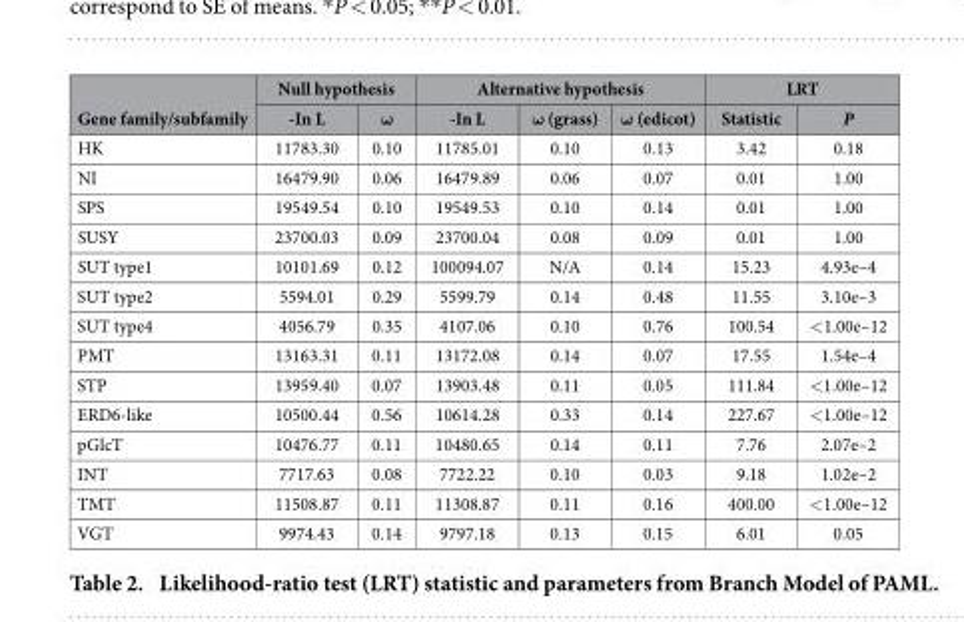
<table><thead><tr><td rowspan="2">Gene family/subfamily</td><td colspan="2">Null hypothesis</td><td colspan="3">Alternative hypothesis</td><td colspan="2">LRT</td></tr><tr><td>-In L</td><td>ω</td><td>-In L</td><td>ω (grass)</td><td>ω (edicot)</td><td>Statistic</td><td>P</td></tr></thead><tbody><tr><td>HK</td><td>11783.30</td><td>0.10</td><td>11785.01</td><td>0.10</td><td>0.13</td><td>3.42</td><td>0.18</td></tr><tr><td>NI</td><td>16479.90</td><td>0.06</td><td>16479.89</td><td>0.06</td><td>0.07</td><td>0.01</td><td>1.00</td></tr><tr><td>SPS</td><td>19549.54</td><td>0.10</td><td>19549.53</td><td>0.10</td><td>0.14</td><td>0.01</td><td>1.00</td></tr><tr><td>SUSY</td><td>23700.03</td><td>0.09</td><td>23700.04</td><td>0.08</td><td>0.09</td><td>0.01</td><td>1.00</td></tr><tr><td>SUT type1</td><td>10101.69</td><td>0.12</td><td>100094.07</td><td>N/A</td><td>0.14</td><td>15.23</td><td>4.93e–4</td></tr><tr><td>SUT type2</td><td>5594.01</td><td>0.29</td><td>5599.79</td><td>0.14</td><td>0.48</td><td>11.55</td><td>3.10e–3</td></tr><tr><td>SUT type4</td><td>4056.79</td><td>0.35</td><td>4107.06</td><td>0.10</td><td>0.76</td><td>100.54</td><td>&lt; 1.00e–12</td></tr><tr><td>PMT</td><td>13163.31</td><td>0.11</td><td>13172.08</td><td>0.14</td><td>0.07</td><td>17.55</td><td>1.54e–4</td></tr><tr><td>STP</td><td>13959.40</td><td>0.07</td><td>13903.48</td><td>0.11</td><td>0.05</td><td>111.84</td><td>&lt; 1.00e–12</td></tr><tr><td>ERD6-like</td><td>10500.44</td><td>0.56</td><td>10614.28</td><td>0.33</td><td>0.14</td><td>227.67</td><td>&lt; 1.00e–12</td></tr><tr><td>pGlcT</td><td>10476.77</td><td>0.11</td><td>10480.65</td><td>0.14</td><td>0.11</td><td>7.76</td><td>2.07e–2</td></tr><tr><td>INT</td><td>7717.63</td><td>0.08</td><td>7722.22</td><td>0.10</td><td>0.03</td><td>9.18</td><td>1.02e–2</td></tr><tr><td>TMT</td><td>11508.87</td><td>0.11</td><td>11308.87</td><td>0.11</td><td>0.16</td><td>400.00</td><td>&lt; 1.00e–12</td></tr><tr><td>VGT</td><td>9974.43</td><td>0.14</td><td>9797.18</td><td>0.13</td><td>0.15</td><td>6.01</td><td>0.05</td></tr></tbody></table>